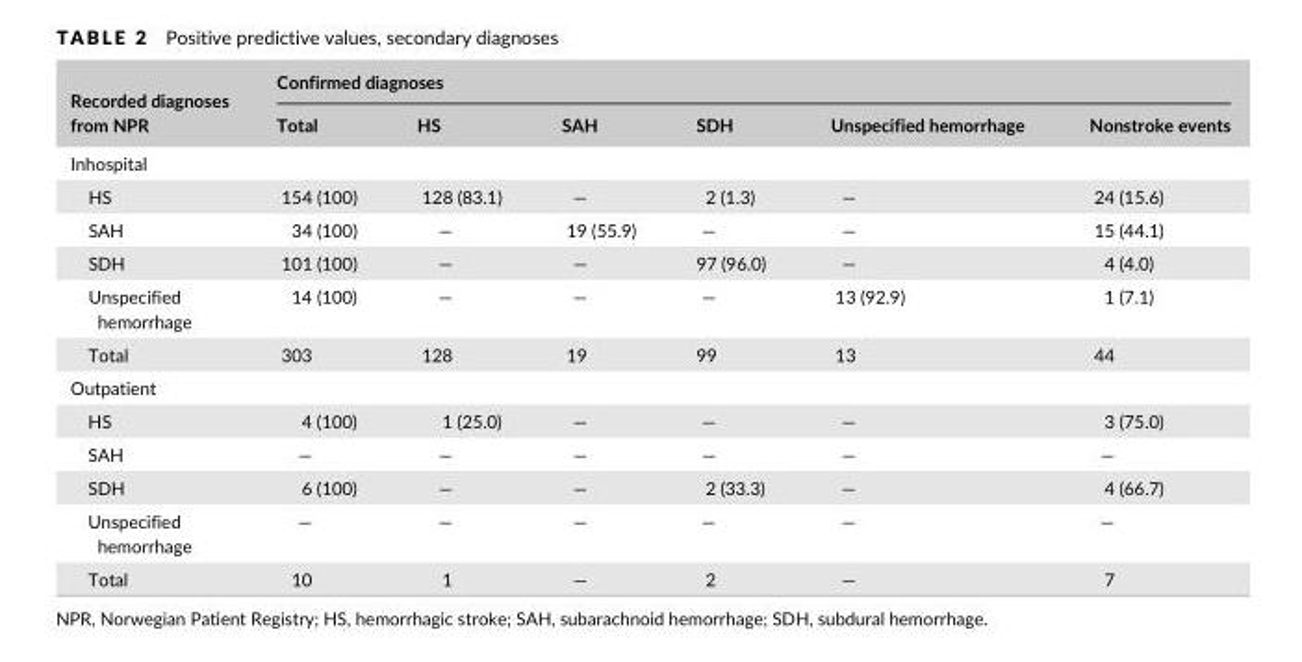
<table><thead><tr><td rowspan="2">Recorded diagnoses from NPR</td><td colspan="6">Confirmed diagnoses</td></tr><tr><td>Total</td><td>HS</td><td>SAH</td><td>SDH</td><td>Unspecified hemorrhage</td><td>Nonstroke events</td></tr></thead><tbody><tr><td colspan="7">Inhospital</td></tr><tr><td>HS</td><td>154 (100)</td><td>128 (83.1)</td><td>—</td><td>2 (1.3)</td><td>—</td><td>24 (15.6)</td></tr><tr><td>SAH</td><td>34 (100)</td><td>—</td><td>19 (55.9)</td><td>—</td><td>—</td><td>15 (44.1)</td></tr><tr><td>SDH</td><td>101 (100)</td><td>—</td><td>—</td><td>97 (96.0)</td><td>—</td><td>4 (4.0)</td></tr><tr><td>Unspecified hemorrhage</td><td>14 (100)</td><td>—</td><td>—</td><td>—</td><td>13 (92.9)</td><td>1 (7.1)</td></tr><tr><td>Total</td><td>303</td><td>128</td><td>19</td><td>99</td><td>13</td><td>44</td></tr><tr><td colspan="7">Outpatient</td></tr><tr><td>HS</td><td>4 (100)</td><td>1 (25.0)</td><td>—</td><td>—</td><td>—</td><td>3 (75.0)</td></tr><tr><td>SAH</td><td>—</td><td>—</td><td>—</td><td>—</td><td>—</td><td>—</td></tr><tr><td>SDH</td><td>6 (100)</td><td>—</td><td>—</td><td>2 (33.3)</td><td>—</td><td>4 (66.7)</td></tr><tr><td>Unspecified hemorrhage</td><td>—</td><td>—</td><td>—</td><td>—</td><td>—</td><td>—</td></tr><tr><td>Total</td><td>10</td><td>1</td><td>—</td><td>2</td><td>—</td><td>7</td></tr></tbody></table>